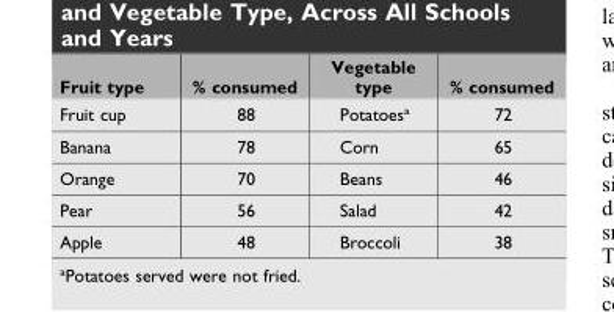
<table><thead><tr><td>Fruit type</td><td>% consumed</td><td>Vegetable type</td><td>% consumed</td></tr></thead><tbody><tr><td>Fruit cup</td><td>88</td><td>Potatoes<sup>a</sup></td><td>72</td></tr><tr><td>Banana</td><td>78</td><td>Corn</td><td>65</td></tr><tr><td>Orange</td><td>70</td><td>Beans</td><td>46</td></tr><tr><td>Pear</td><td>56</td><td>Salad</td><td>42</td></tr><tr><td>Apple</td><td>48</td><td>Broccoli</td><td>38</td></tr></tbody></table>